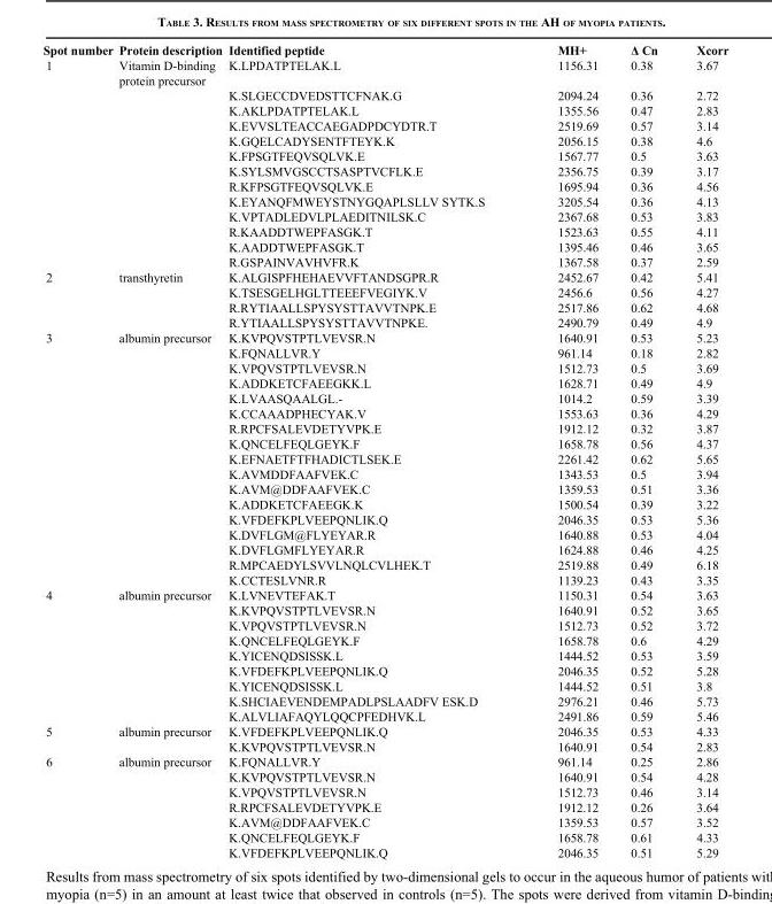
<table><thead><tr><td>Spot number</td><td>Protein description</td><td>Identified peptide</td><td>MH+</td><td>Δ Cn</td><td>Xcorr</td></tr></thead><tbody><tr><td rowspan="13">1</td><td>Vitamin D-binding protein precursor</td><td>K.LPDATPTELAK.L</td><td>1156.31</td><td>0.38</td><td>3.67</td></tr><tr><td></td><td>K.SLGECCDVEDSTTCFNAK.G</td><td>2094.24</td><td>0.36</td><td>2.72</td></tr><tr><td></td><td>K.AKLPDATPTELAK.L</td><td>1355.56</td><td>0.47</td><td>2.83</td></tr><tr><td></td><td>K.EVVSLTEACCAEGADPDCYDTR.T</td><td>2519.69</td><td>0.57</td><td>3.14</td></tr><tr><td></td><td>K.GQELCADYSENTFTEYK.K</td><td>2056.15</td><td>0.38</td><td>4.6</td></tr><tr><td></td><td>K.FPSGTFEQVSQLVK.E</td><td>1567.77</td><td>0.5</td><td>3.63</td></tr><tr><td></td><td>K.SYLSMVGSCCTSASPTVCFLK.E</td><td>2356.75</td><td>0.39</td><td>3.17</td></tr><tr><td></td><td>R.KFPSGTFEQVSQLVK.E</td><td>1695.94</td><td>0.36</td><td>4.56</td></tr><tr><td></td><td>K.EYANQFMWEYSTNYGQAPLSLLV SYTK.S</td><td>3205.54</td><td>0.36</td><td>4.13</td></tr><tr><td></td><td>K.VPTADLEDVLPLAEDITNILSK.C</td><td>2367.68</td><td>0.53</td><td>3.83</td></tr><tr><td></td><td>R.KAADDTWEPFASGK.T</td><td>1523.63</td><td>0.55</td><td>4.11</td></tr><tr><td></td><td>K.AADDTWEPFASGK.T</td><td>1395.46</td><td>0.46</td><td>3.65</td></tr><tr><td></td><td>R.GSPAINVAVHVFR.K</td><td>1367.58</td><td>0.37</td><td>2.59</td></tr><tr><td rowspan="4">2</td><td>transthyretin</td><td>K.ALGISPFHEHAEVVFTANDSGPR.R</td><td>2452.67</td><td>0.42</td><td>5.41</td></tr><tr><td></td><td>K.TSESGELHGLTTEEEFVEGIYK.V</td><td>2456.6</td><td>0.56</td><td>4.27</td></tr><tr><td></td><td>R.RYTIAALLSPYSYSTTAVVTNPK.E</td><td>2517.86</td><td>0.62</td><td>4.68</td></tr><tr><td></td><td>R.YTIAALLSPYSYSTTAVVTNPKE.</td><td>2490.79</td><td>0.49</td><td>4.9</td></tr><tr><td rowspan="17">3</td><td>albumin precursor</td><td>K.KVPQVSTPTLVEVSR.N</td><td>1640.91</td><td>0.53</td><td>5.23</td></tr><tr><td></td><td>K.FQNALLVR.Y</td><td>961.14</td><td>0.18</td><td>2.82</td></tr><tr><td></td><td>K.VPQVSTPTLVEVSR.N</td><td>1512.73</td><td>0.5</td><td>3.69</td></tr><tr><td></td><td>K.ADDKETCFAEEGKK.L</td><td>1628.71</td><td>0.49</td><td>4.9</td></tr><tr><td></td><td>K.LVAASQAALGL.-</td><td>1014.2</td><td>0.59</td><td>3.39</td></tr><tr><td></td><td>K.CCAAADPHECYAK.V</td><td>1553.63</td><td>0.36</td><td>4.29</td></tr><tr><td></td><td>R.RPCFSALEVDETYVPK.E</td><td>1912.12</td><td>0.32</td><td>3.87</td></tr><tr><td></td><td>K.QNCELFEQLGEYK.F</td><td>1658.78</td><td>0.56</td><td>4.37</td></tr><tr><td></td><td>K.EFNAETFTFHADICTLSEK.E</td><td>2261.42</td><td>0.62</td><td>5.65</td></tr><tr><td></td><td>K.AVMDDFAAFVEK.C</td><td>1343.53</td><td>0.5</td><td>3.94</td></tr><tr><td></td><td>K.AVM@DDFAAFVEK.C</td><td>1359.53</td><td>0.51</td><td>3.36</td></tr><tr><td></td><td>K.ADDKETCFAEEGK.K</td><td>1500.54</td><td>0.39</td><td>3.22</td></tr><tr><td></td><td>K.VFDEFKPLVEEPQNLIK.Q</td><td>2046.35</td><td>0.53</td><td>5.36</td></tr><tr><td></td><td>K.DVFLGM@FLYEYAR.R</td><td>1640.88</td><td>0.53</td><td>4.04</td></tr><tr><td></td><td>K.DVFLGMFLYEYAR.R</td><td>1624.88</td><td>0.46</td><td>4.25</td></tr><tr><td></td><td>R.MPCAEDYLSVVLNQLCVLHEK.T</td><td>2519.88</td><td>0.49</td><td>6.18</td></tr><tr><td></td><td>K.CCTESLVNR.R</td><td>1139.23</td><td>0.43</td><td>3.35</td></tr><tr><td rowspan="9">4</td><td>albumin precursor</td><td>K.LVNEVTEFAK.T</td><td>1150.31</td><td>0.54</td><td>3.63</td></tr><tr><td></td><td>K.KVPQVSTPTLVEVSR.N</td><td>1640.91</td><td>0.52</td><td>3.65</td></tr><tr><td></td><td>K.VPQVSTPTLVEVSR.N</td><td>1512.73</td><td>0.52</td><td>3.72</td></tr><tr><td></td><td>K.QNCELFEQLGEYK.F</td><td>1658.78</td><td>0.6</td><td>4.29</td></tr><tr><td></td><td>K.YICENQDSISSK.L</td><td>1444.52</td><td>0.53</td><td>3.59</td></tr><tr><td></td><td>K.VFDEFKPLVEEPQNLIK.Q</td><td>2046.35</td><td>0.52</td><td>5.28</td></tr><tr><td></td><td>K.YICENQDSISSK.L</td><td>1444.52</td><td>0.51</td><td>3.8</td></tr><tr><td></td><td>K.SHCIAEVENDEMPADLPSLAADFV ESK.D</td><td>2976.21</td><td>0.46</td><td>5.73</td></tr><tr><td></td><td>K.ALVLIAFAQYLQQCPFEDHVK.L</td><td>2491.86</td><td>0.59</td><td>5.46</td></tr><tr><td rowspan="2">5</td><td>albumin precursor</td><td>K.VFDEFKPLVEEPQNLIK.Q</td><td>2046.35</td><td>0.53</td><td>4.33</td></tr><tr><td></td><td>K.KVPQVSTPTLVEVSR.N</td><td>1640.91</td><td>0.54</td><td>2.83</td></tr><tr><td rowspan="7">6</td><td>albumin precursor</td><td>K.FQNALLVR.Y</td><td>961.14</td><td>0.25</td><td>2.86</td></tr><tr><td></td><td>K.KVPQVSTPTLVEVSR.N</td><td>1640.91</td><td>0.54</td><td>4.28</td></tr><tr><td></td><td>K.VPQVSTPTLVEVSR.N</td><td>1512.73</td><td>0.46</td><td>3.14</td></tr><tr><td></td><td>R.RPCFSALEVDETYVPK.E</td><td>1912.12</td><td>0.26</td><td>3.64</td></tr><tr><td></td><td>K.AVM@DDFAAFVEK.C</td><td>1359.53</td><td>0.57</td><td>3.52</td></tr><tr><td></td><td>K.QNCELFEQLGEYK.F</td><td>1658.78</td><td>0.61</td><td>4.33</td></tr><tr><td></td><td>K.VFDEFKPLVEEPQNLIK.Q</td><td>2046.35</td><td>0.51</td><td>5.29</td></tr></tbody></table>